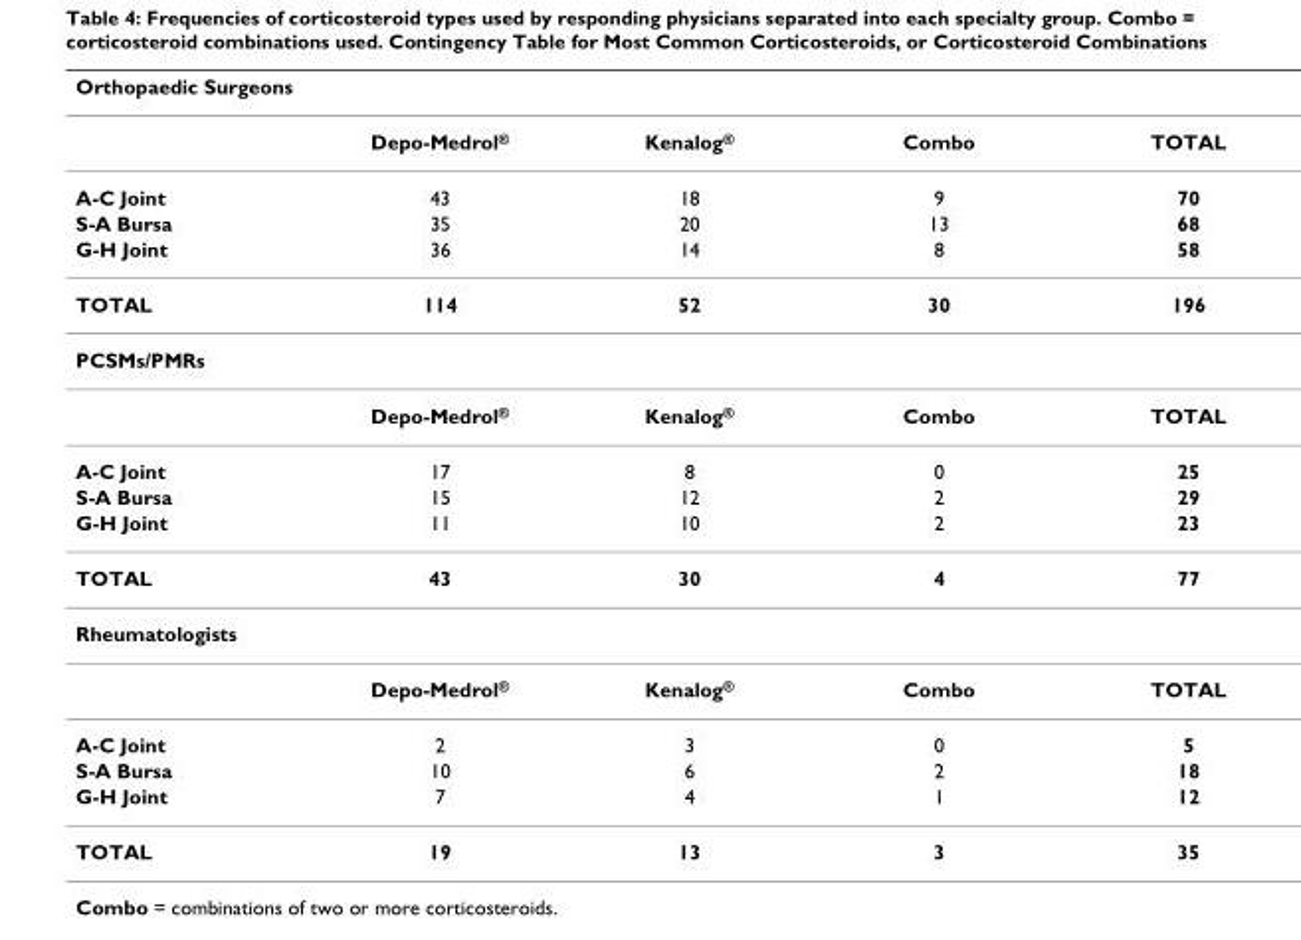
<table><thead><tr><td colspan="5">Orthopaedic Surgeons</td></tr><tr><td></td><td>Depo-Medrol<sup>®</sup></td><td>Kenalog<sup>®</sup></td><td>Combo</td><td>TOTAL</td></tr></thead><tbody><tr><td>A-C Joint</td><td>43</td><td>18</td><td>9</td><td>70</td></tr><tr><td>S-A Bursa</td><td>35</td><td>20</td><td>13</td><td>68</td></tr><tr><td>G-H Joint</td><td>36</td><td>14</td><td>8</td><td>58</td></tr><tr><td>TOTAL</td><td>114</td><td>52</td><td>30</td><td>196</td></tr><tr><td colspan="5">PCSMs/PMRs</td></tr><tr><td></td><td>Depo-Medrol<sup>®</sup></td><td>Kenalog<sup>®</sup></td><td>Combo</td><td>TOTAL</td></tr><tr><td>A-C Joint</td><td>17</td><td>8</td><td>0</td><td>25</td></tr><tr><td>S-A Bursa</td><td>15</td><td>12</td><td>2</td><td>29</td></tr><tr><td>G-H Joint</td><td>11</td><td>10</td><td>2</td><td>23</td></tr><tr><td>TOTAL</td><td>43</td><td>30</td><td>4</td><td>77</td></tr><tr><td colspan="5">Rheumatologists</td></tr><tr><td></td><td>Depo-Medrol<sup>®</sup></td><td>Kenalog<sup>®</sup></td><td>Combo</td><td>TOTAL</td></tr><tr><td>A-C Joint</td><td>2</td><td>3</td><td>0</td><td>5</td></tr><tr><td>S-A Bursa</td><td>10</td><td>6</td><td>2</td><td>18</td></tr><tr><td>G-H Joint</td><td>7</td><td>4</td><td>1</td><td>12</td></tr><tr><td>TOTAL</td><td>19</td><td>13</td><td>3</td><td>35</td></tr></tbody></table>